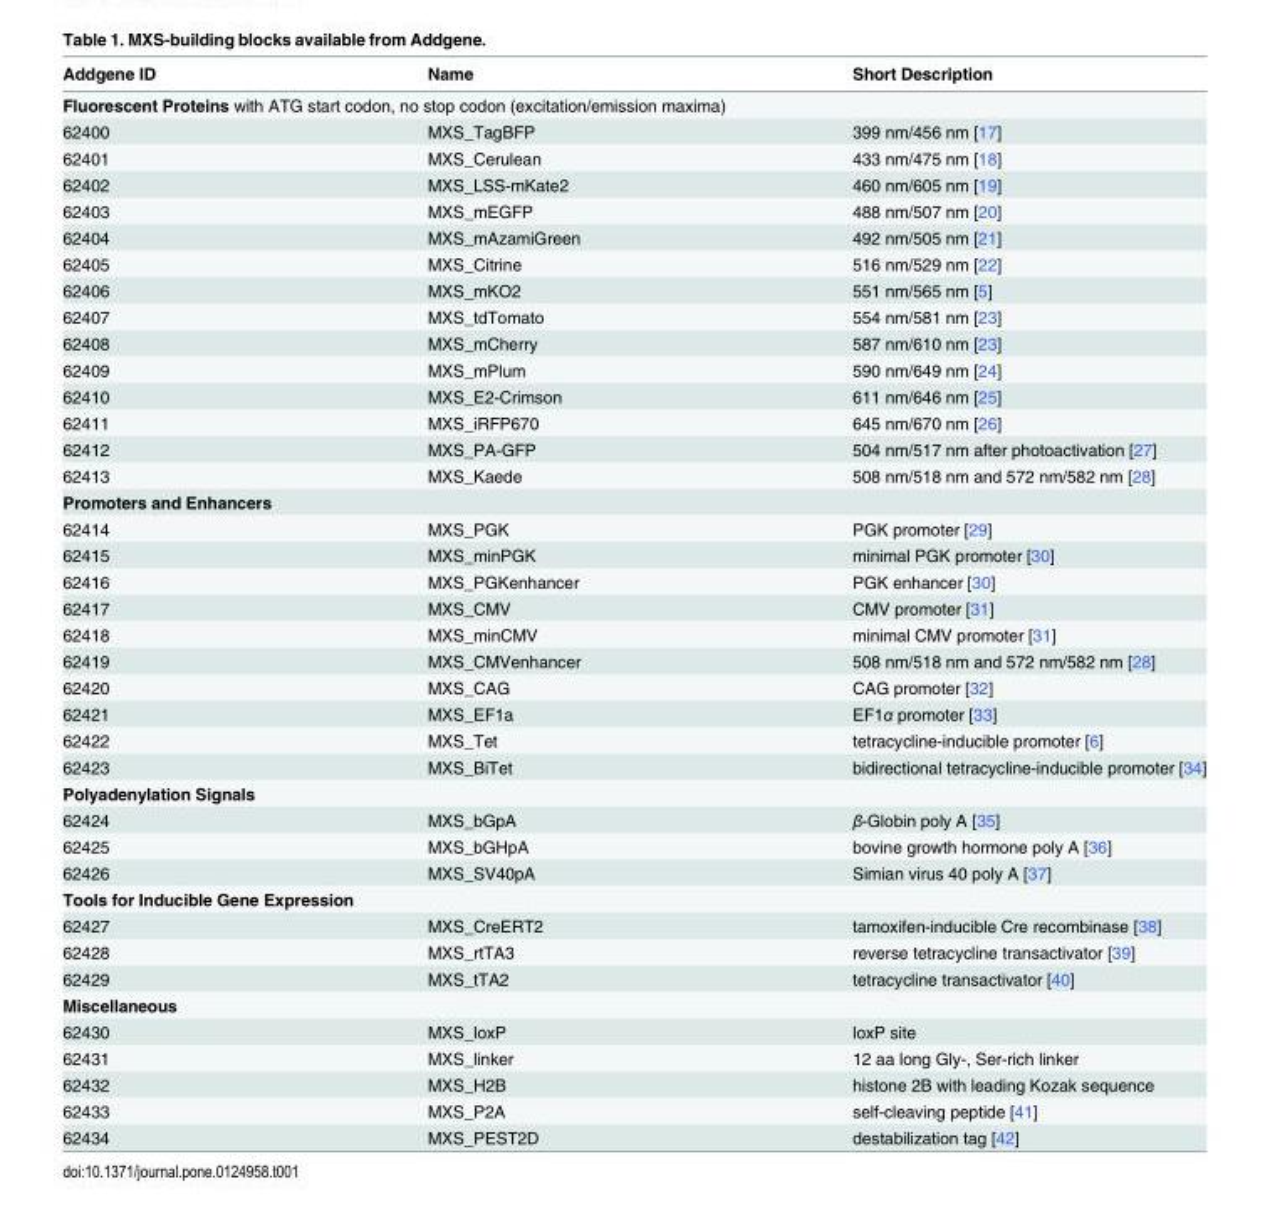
<table><thead><tr><td>Addgene ID</td><td>Name</td><td>Short Description</td></tr></thead><tbody><tr><td colspan="3">Fluorescent Proteins with ATG start codon, no stop codon (excitation/emission maxima)</td></tr><tr><td>62400</td><td>MXS_TagBFP</td><td>399 nm/456 nm [17]</td></tr><tr><td>62401</td><td>MXS_Cerulean</td><td>433 nm/475 nm [18]</td></tr><tr><td>62402</td><td>MXS_LSS-mKate2</td><td>460 nm/605 nm [19]</td></tr><tr><td>62403</td><td>MXS_mEGFP</td><td>488 nm/507 nm [20]</td></tr><tr><td>62404</td><td>MXS_mAzamiGreen</td><td>492 nm/505 nm [21]</td></tr><tr><td>62405</td><td>MXS_Citrine</td><td>516 nm/529 nm [22]</td></tr><tr><td>62406</td><td>MXS_mKO2</td><td>551 nm/565 nm [5]</td></tr><tr><td>62407</td><td>MXS_tdTomato</td><td>554 nm/581 nm [23]</td></tr><tr><td>62408</td><td>MXS_mCherry</td><td>587 nm/610 nm [23]</td></tr><tr><td>62409</td><td>MXS_mPlum</td><td>590 nm/649 nm [24]</td></tr><tr><td>62410</td><td>MXS_E2-Crimson</td><td>611 nm/646 nm [25]</td></tr><tr><td>62411</td><td>MXS_iRFP670</td><td>645 nm/670 nm [26]</td></tr><tr><td>62412</td><td>MXS_PA-GFP</td><td>504 nm/517 nm after photoactivation [27]</td></tr><tr><td>62413</td><td>MXS_Kaede</td><td>508 nm/518 nm and 572 nm/582 nm [28]</td></tr><tr><td colspan="3">Promoters and Enhancers</td></tr><tr><td>62414</td><td>MXS_PGK</td><td>PGK promoter [29]</td></tr><tr><td>62415</td><td>MXS_minPGK</td><td>minimal PGK promoter [30]</td></tr><tr><td>62416</td><td>MXS_PGKenhancer</td><td>PGK enhancer [30]</td></tr><tr><td>62417</td><td>MXS_CMV</td><td>CMV promoter [31]</td></tr><tr><td>62418</td><td>MXS_minCMV</td><td>minimal CMV promoter [31]</td></tr><tr><td>62419</td><td>MXS_CMVenhancer</td><td>508 nm/518 nm and 572 nm/582 nm [28]</td></tr><tr><td>62420</td><td>MXS_CAG</td><td>CAG promoter [32]</td></tr><tr><td>62421</td><td>MXS_EF1a</td><td>EF1α promoter [33]</td></tr><tr><td>62422</td><td>MXS_Tet</td><td>tetracycline-inducible promoter [6]</td></tr><tr><td>62423</td><td>MXS_BiTet</td><td>bidirectional tetracycline-inducible promoter [34]</td></tr><tr><td colspan="3">Polyadenylation Signals</td></tr><tr><td>62424</td><td>MXS_bGpA</td><td>β-Globin poly A [35]</td></tr><tr><td>62425</td><td>MXS_bGHpA</td><td>bovine growth hormone poly A [36]</td></tr><tr><td>62426</td><td>MXS_SV40pA</td><td>Simian virus 40 poly A [37]</td></tr><tr><td colspan="3">Tools for Inducible Gene Expression</td></tr><tr><td>62427</td><td>MXS_CreERT2</td><td>tamoxifen-inducible Cre recombinase [38]</td></tr><tr><td>62428</td><td>MXS_rtTA3</td><td>reverse tetracycline transactivator [39]</td></tr><tr><td>62429</td><td>MXS_tTA2</td><td>tetracycline transactivator [40]</td></tr><tr><td colspan="3">Miscellaneous</td></tr><tr><td>62430</td><td>MXS_loxP</td><td>loxP site</td></tr><tr><td>62431</td><td>MXS_linker</td><td>12 aa long Gly-, Ser-rich linker</td></tr><tr><td>62432</td><td>MXS_H2B</td><td>histone 2B with leading Kozak sequence</td></tr><tr><td>62433</td><td>MXS_P2A</td><td>self-cleaving peptide [41]</td></tr><tr><td>62434</td><td>MXS_PEST2D</td><td>destabilization tag [42]</td></tr></tbody></table>